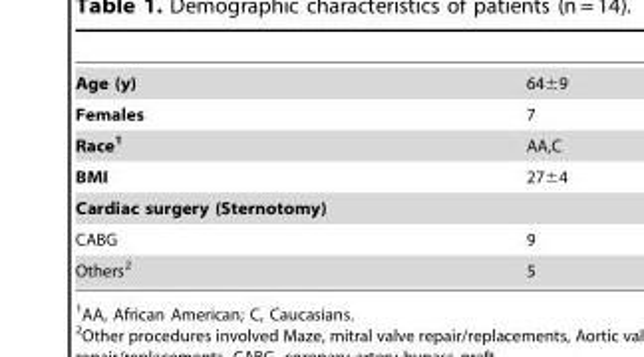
<table><tbody><tr><td>Age (y)</td><td>64±9</td></tr><tr><td>Females</td><td>7</td></tr><tr><td>Race1</td><td>AA,C</td></tr><tr><td>BMI</td><td>27±4</td></tr><tr><td colspan="2">Cardiac surgery (Sternotomy)</td></tr><tr><td>CABG</td><td>9</td></tr><tr><td>Others<sup>2</sup></td><td>5</td></tr></tbody></table>